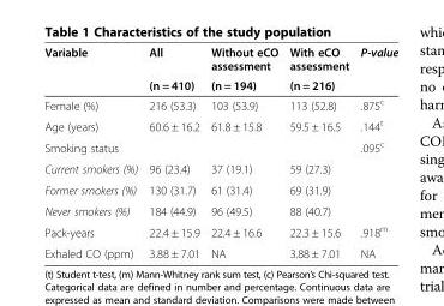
<table><thead><tr><td rowspan="2">Variable</td><td rowspan="2">All (n = 410)</td><td rowspan="2">Without eCO assessment (n = 194)</td><td rowspan="2">With eCO assessment (n = 216)</td><td rowspan="2">P-value</td></tr><tr></tr></thead><tbody><tr><td>Female (%)</td><td>216 (53.3)</td><td>103 (53.9)</td><td>113 (52.8)</td><td>.875<sup>c</sup></td></tr><tr><td>Age (years)</td><td>60.6 ± 16.2</td><td>61.8 ± 15.8</td><td>59.5 ± 16.5</td><td>.144<sup>t</sup></td></tr><tr><td>Smoking status</td><td></td><td></td><td></td><td>.095<sup>c</sup></td></tr><tr><td>Current smokers (%)</td><td>96 (23.4)</td><td>37 (19.1)</td><td>59 (27.3)</td><td></td></tr><tr><td>Former smokers (%)</td><td>130 (31.7)</td><td>61 (31.4)</td><td>69 (31.9)</td><td></td></tr><tr><td>Never smokers (%)</td><td>184 (44.9)</td><td>96 (49.5)</td><td>88 (40.7)</td><td></td></tr><tr><td>Pack-years</td><td>22.4 ± 15.9</td><td>22.4 ± 16.6</td><td>22.3 ± 15.6</td><td>.918<sup>m</sup></td></tr><tr><td>Exhaled CO (ppm)</td><td>3.88 ± 7.01</td><td>NA</td><td>3.88 ± 7.01</td><td>NA</td></tr></tbody></table>